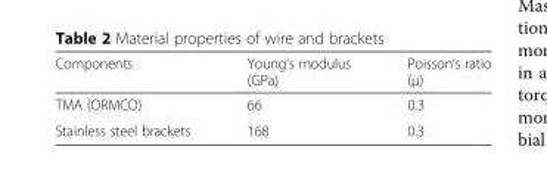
<table><thead><tr><td>Components</td><td>Young’s modulus (GPa)</td><td>Poisson’s ratio (μ)</td></tr></thead><tbody><tr><td>TMA (ORMCO)</td><td>66</td><td>0.3</td></tr><tr><td>Stainless steel brackets</td><td>168</td><td>0.3</td></tr></tbody></table>